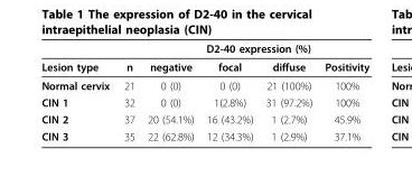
<table><thead><tr><td rowspan="2">Lesion type</td><td rowspan="2">n</td><td colspan="4">D2-40 expression (%)</td></tr><tr><td>negative</td><td>focal</td><td>diffuse</td><td>Positivity</td></tr></thead><tbody><tr><td>Normal cervix</td><td>21</td><td>0 (0)</td><td>0 (0)</td><td>21 (100%)</td><td>100%</td></tr><tr><td>CIN 1</td><td>32</td><td>0 (0)</td><td>1(2.8%)</td><td>31 (97.2%)</td><td>100%</td></tr><tr><td>CIN 2</td><td>37</td><td>20 (54.1%)</td><td>16 (43.2%)</td><td>1 (2.7%)</td><td>45.9%</td></tr><tr><td>CIN 3</td><td>35</td><td>22 (62.8%)</td><td>12 (34.3%)</td><td>1 (2.9%)</td><td>37.1%</td></tr></tbody></table>